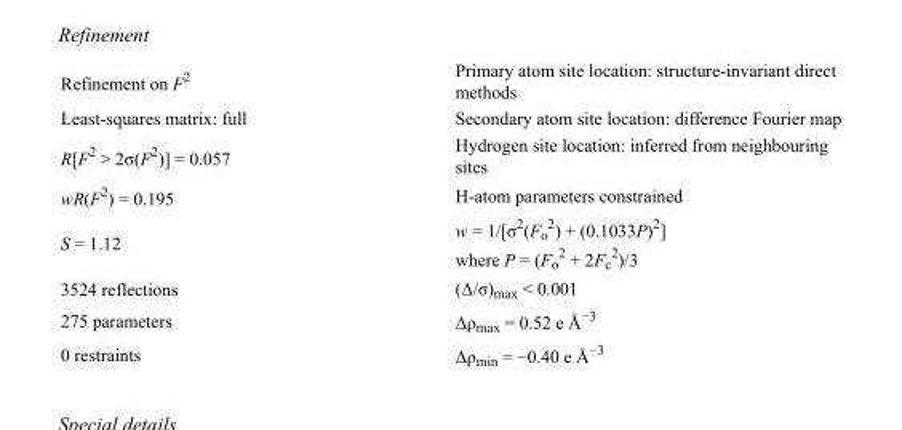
<table><tbody><tr><td>Refinement on F<sup>2</sup></td><td>Primary atom site location: structure-invariant direct methods</td></tr><tr><td>Least-squares matrix: full</td><td>Secondary atom site location: difference Fourier map</td></tr><tr><td>R[F<sup>2</sup> &gt; 2σ(F<sup>2</sup>)] = 0.057</td><td>Hydrogen site location: inferred from neighbouring sites</td></tr><tr><td>wR(F<sup>2</sup>) = 0.195</td><td>H-atom parameters constrained</td></tr><tr><td>S = 1.12</td><td>w = 1/[σ<sup>2</sup>(F<sub>o</sub> <sup>2</sup>) + (0.1033P)<sup>2</sup>] where P = (F<sub>o</sub> <sup>2</sup> + 2F<sub>c</sub> <sup>2</sup>)/3</td></tr><tr><td>3524 reflections</td><td>(Δ/σ)<sub>max</sub> &lt; 0.001</td></tr><tr><td>275 parameters</td><td>Δρ<sub>max</sub> = 0.52 e Å<sup>−3</sup></td></tr><tr><td>0 restraints</td><td>Δρ<sub>min</sub> = −0.40 e Å<sup>−3</sup></td></tr></tbody></table>